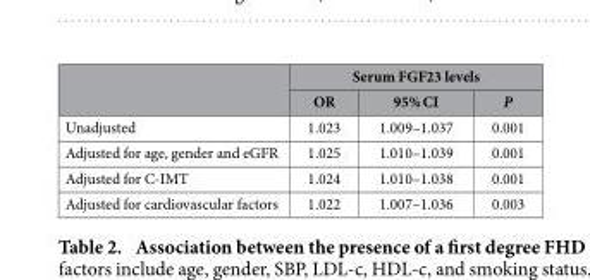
<table><thead><tr><td rowspan="2"></td><td colspan="3">Serum FGF23 levels</td></tr><tr><td>OR</td><td>95% CI</td><td>P</td></tr></thead><tbody><tr><td>Unadjusted</td><td>1.023</td><td>1.009–1.037</td><td>0.001</td></tr><tr><td>Adjusted for age, gender and eGFR</td><td>1.025</td><td>1.010–1.039</td><td>0.001</td></tr><tr><td>Adjusted for C-IMT</td><td>1.024</td><td>1.010–1.038</td><td>0.001</td></tr><tr><td>Adjusted for cardiovascular factors</td><td>1.022</td><td>1.007–1.036</td><td>0.003</td></tr></tbody></table>